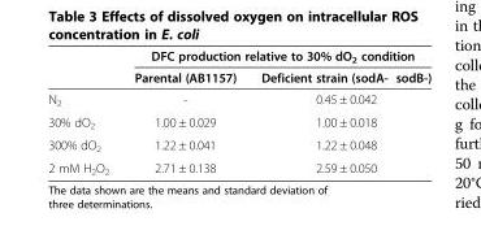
<table><thead><tr><td rowspan="2"></td><td colspan="2">DFC production relative to 30% dO<sub>2</sub> condition</td></tr><tr><td>Parental (AB1157)</td><td>Deficient strain (sodA- sodB-)</td></tr></thead><tbody><tr><td>N<sub>2</sub></td><td>-</td><td>0.45 ± 0.042</td></tr><tr><td>30% dO<sub>2</sub></td><td>1.00 ± 0.029</td><td>1.00 ± 0.018</td></tr><tr><td>300% dO<sub>2</sub></td><td>1.22 ± 0.041</td><td>1.22 ± 0.048</td></tr><tr><td>2 mM H<sub>2</sub>O<sub>2</sub></td><td>2.71 ± 0.138</td><td>2.59 ± 0.050</td></tr></tbody></table>